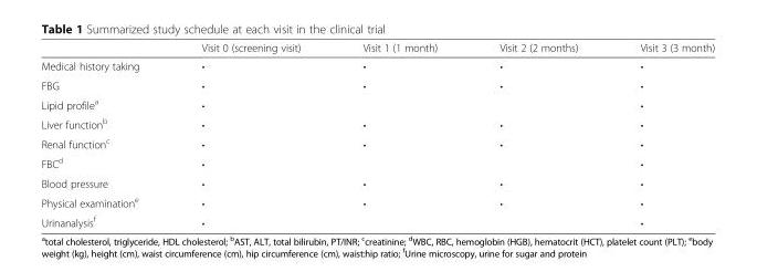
<table><thead><tr><td></td><td>Visit 0 (screening visit)</td><td>Visit 1 (1 month)</td><td>Visit 2 (2 months)</td><td>Visit 3 (3 month)</td></tr></thead><tbody><tr><td>Medical history taking</td><td>•</td><td>•</td><td>•</td><td>•</td></tr><tr><td>FBG</td><td>•</td><td>•</td><td>•</td><td>•</td></tr><tr><td>Lipid profile<sup>a</sup></td><td>•</td><td></td><td></td><td>•</td></tr><tr><td>Liver function<sup>b</sup></td><td>•</td><td>•</td><td>•</td><td>•</td></tr><tr><td>Renal function<sup>c</sup></td><td>•</td><td>•</td><td>•</td><td>•</td></tr><tr><td>FBC<sup>d</sup></td><td>•</td><td></td><td></td><td>•</td></tr><tr><td>Blood pressure</td><td>•</td><td>•</td><td>•</td><td>•</td></tr><tr><td>Physical examination<sup>e</sup></td><td>•</td><td>•</td><td>•</td><td>•</td></tr><tr><td>Urinanalysis<sup>f</sup></td><td>•</td><td></td><td></td><td>•</td></tr></tbody></table>